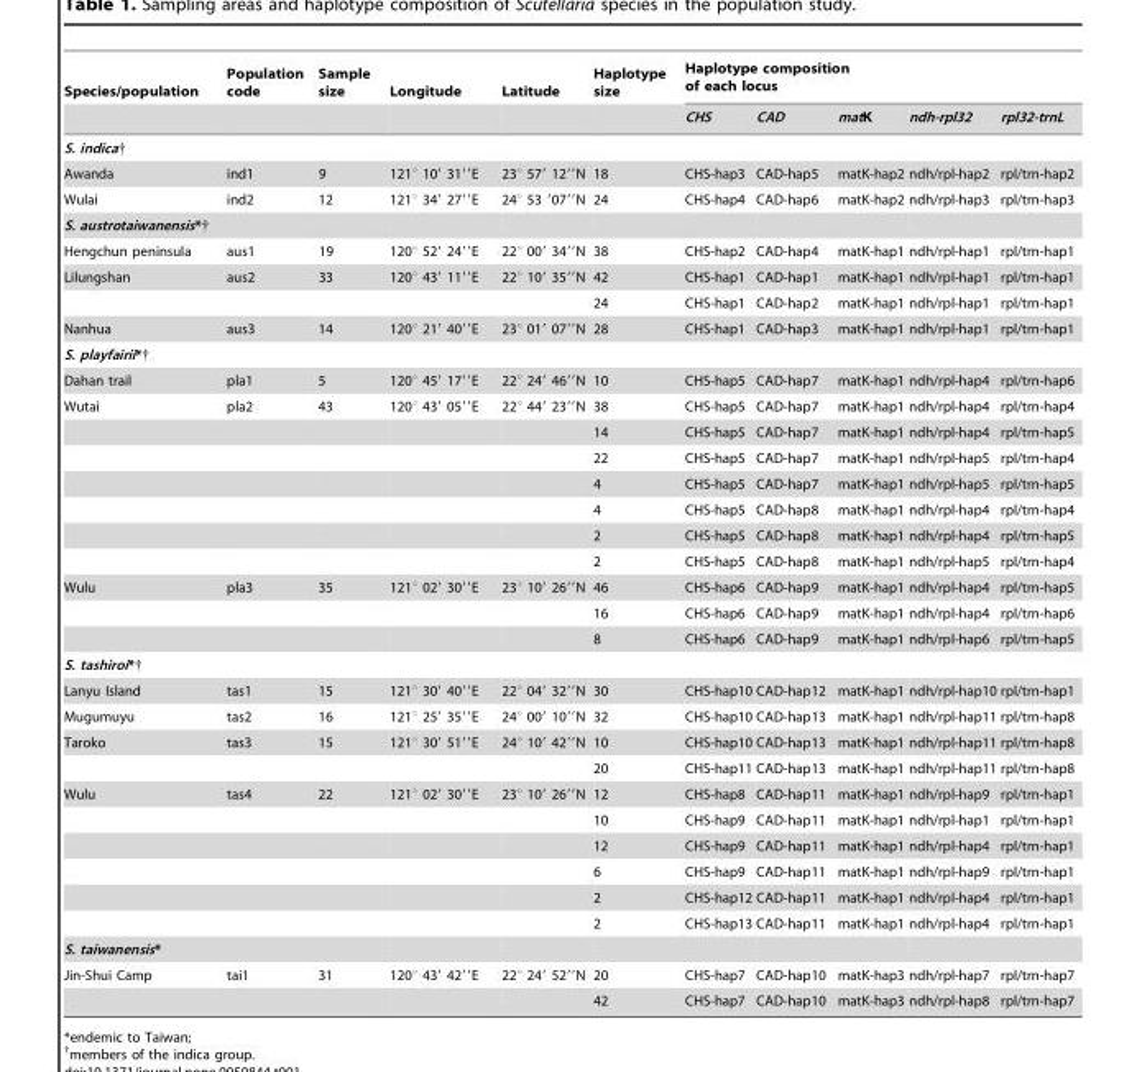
<table><thead><tr><td rowspan="2">Species/population</td><td rowspan="2">Population code</td><td rowspan="2">Sample size</td><td rowspan="2">Longitude</td><td rowspan="2">Latitude</td><td rowspan="2">Haplotype size</td><td colspan="5">Haplotype composition of each locus</td></tr><tr><td>CHS</td><td>CAD</td><td>matK</td><td>ndh-rpl32</td><td>rpl32-trnL</td></tr></thead><tbody><tr><td colspan="11">S. indica†</td></tr><tr><td>Awanda</td><td>ind1</td><td>9</td><td>121° 10′ 31′′E</td><td>23° 57′ 12′′N</td><td>18</td><td>CHS-hap3</td><td>CAD-hap5</td><td>matK-hap2</td><td>ndh/rpl-hap2</td><td>rpl/trn-hap2</td></tr><tr><td>Wulai</td><td>ind2</td><td>12</td><td>121° 34′ 27′′E</td><td>24° 53 ′07′′N</td><td>24</td><td>CHS-hap4</td><td>CAD-hap6</td><td>matK-hap2</td><td>ndh/rpl-hap3</td><td>rpl/trn-hap3</td></tr><tr><td colspan="11">S. austrotaiwanensis*†</td></tr><tr><td>Hengchun peninsula</td><td>aus1</td><td>19</td><td>120° 52′ 24′′E</td><td>22° 00′ 34′′N</td><td>38</td><td>CHS-hap2</td><td>CAD-hap4</td><td>matK-hap1</td><td>ndh/rpl-hap1</td><td>rpl/trn-hap1</td></tr><tr><td rowspan="2">Lilungshan</td><td>aus2</td><td>33</td><td>120° 43′ 11′′E</td><td>22° 10′ 35′′N</td><td>42</td><td>CHS-hap1</td><td>CAD-hap1</td><td>matK-hap1</td><td>ndh/rpl-hap1</td><td>rpl/trn-hap1</td></tr><tr><td></td><td></td><td></td><td></td><td>24</td><td>CHS-hap1</td><td>CAD-hap2</td><td>matK-hap1</td><td>ndh/rpl-hap1</td><td>rpl/trn-hap1</td></tr><tr><td>Nanhua</td><td>aus3</td><td>14</td><td>120° 21′ 40′′E</td><td>23° 01′ 07′′N</td><td>28</td><td>CHS-hap1</td><td>CAD-hap3</td><td>matK-hap1</td><td>ndh/rpl-hap1</td><td>rpl/trn-hap1</td></tr><tr><td colspan="11">S. playfairii*†</td></tr><tr><td>Dahan trail</td><td>pla1</td><td>5</td><td>120° 45′ 17′′E</td><td>22° 24′ 46′′N</td><td>10</td><td>CHS-hap5</td><td>CAD-hap7</td><td>matK-hap1</td><td>ndh/rpl-hap4</td><td>rpl/trn-hap6</td></tr><tr><td rowspan="7">Wutai</td><td>pla2</td><td>43</td><td>120° 43′ 05′′E</td><td>22° 44′ 23′′N</td><td>38</td><td>CHS-hap5</td><td>CAD-hap7</td><td>matK-hap1</td><td>ndh/rpl-hap4</td><td>rpl/trn-hap4</td></tr><tr><td></td><td></td><td></td><td></td><td>14</td><td>CHS-hap5</td><td>CAD-hap7</td><td>matK-hap1</td><td>ndh/rpl-hap4</td><td>rpl/trn-hap5</td></tr><tr><td></td><td></td><td></td><td></td><td>22</td><td>CHS-hap5</td><td>CAD-hap7</td><td>matK-hap1</td><td>ndh/rpl-hap5</td><td>rpl/trn-hap4</td></tr><tr><td></td><td></td><td></td><td></td><td>4</td><td>CHS-hap5</td><td>CAD-hap7</td><td>matK-hap1</td><td>ndh/rpl-hap5</td><td>rpl/trn-hap5</td></tr><tr><td></td><td></td><td></td><td></td><td>4</td><td>CHS-hap5</td><td>CAD-hap8</td><td>matK-hap1</td><td>ndh/rpl-hap4</td><td>rpl/trn-hap4</td></tr><tr><td></td><td></td><td></td><td></td><td>2</td><td>CHS-hap5</td><td>CAD-hap8</td><td>matK-hap1</td><td>ndh/rpl-hap4</td><td>rpl/trn-hap5</td></tr><tr><td></td><td></td><td></td><td></td><td>2</td><td>CHS-hap5</td><td>CAD-hap8</td><td>matK-hap1</td><td>ndh/rpl-hap5</td><td>rpl/trn-hap4</td></tr><tr><td rowspan="3">Wulu</td><td>pla3</td><td>35</td><td>121° 02′ 30′′E</td><td>23° 10′ 26′′N</td><td>46</td><td>CHS-hap6</td><td>CAD-hap9</td><td>matK-hap1</td><td>ndh/rpl-hap4</td><td>rpl/trn-hap5</td></tr><tr><td></td><td></td><td></td><td></td><td>16</td><td>CHS-hap6</td><td>CAD-hap9</td><td>matK-hap1</td><td>ndh/rpl-hap4</td><td>rpl/trn-hap6</td></tr><tr><td></td><td></td><td></td><td></td><td>8</td><td>CHS-hap6</td><td>CAD-hap9</td><td>matK-hap1</td><td>ndh/rpl-hap6</td><td>rpl/trn-hap5</td></tr><tr><td colspan="11">S. tashiroi*†</td></tr><tr><td>Lanyu Island</td><td>tas1</td><td>15</td><td>121° 30′ 40′′E</td><td>22° 04′ 32′′N</td><td>30</td><td>CHS-hap10</td><td>CAD-hap12</td><td>matK-hap1</td><td>ndh/rpl-hap10</td><td>rpl/trn-hap1</td></tr><tr><td>Mugumuyu</td><td>tas2</td><td>16</td><td>121° 25′ 35′′E</td><td>24° 00′ 10′′N</td><td>32</td><td>CHS-hap10</td><td>CAD-hap13</td><td>matK-hap1</td><td>ndh/rpl-hap11</td><td>rpl/trn-hap8</td></tr><tr><td rowspan="2">Taroko</td><td>tas3</td><td>15</td><td>121° 30′ 51′′E</td><td>24° 10′ 42′′N</td><td>10</td><td>CHS-hap10</td><td>CAD-hap13</td><td>matK-hap1</td><td>ndh/rpl-hap11</td><td>rpl/trn-hap8</td></tr><tr><td></td><td></td><td></td><td></td><td>20</td><td>CHS-hap11</td><td>CAD-hap13</td><td>matK-hap1</td><td>ndh/rpl-hap11</td><td>rpl/trn-hap8</td></tr><tr><td rowspan="6">Wulu</td><td>tas4</td><td>22</td><td>121° 02′ 30′′E</td><td>23° 10′ 26′′N</td><td>12</td><td>CHS-hap8</td><td>CAD-hap11</td><td>matK-hap1</td><td>ndh/rpl-hap9</td><td>rpl/trn-hap1</td></tr><tr><td></td><td></td><td></td><td></td><td>10</td><td>CHS-hap9</td><td>CAD-hap11</td><td>matK-hap1</td><td>ndh/rpl-hap1</td><td>rpl/trn-hap1</td></tr><tr><td></td><td></td><td></td><td></td><td>12</td><td>CHS-hap9</td><td>CAD-hap11</td><td>matK-hap1</td><td>ndh/rpl-hap4</td><td>rpl/trn-hap1</td></tr><tr><td></td><td></td><td></td><td></td><td>6</td><td>CHS-hap9</td><td>CAD-hap11</td><td>matK-hap1</td><td>ndh/rpl-hap9</td><td>rpl/trn-hap1</td></tr><tr><td></td><td></td><td></td><td></td><td>2</td><td>CHS-hap12</td><td>CAD-hap11</td><td>matK-hap1</td><td>ndh/rpl-hap4</td><td>rpl/trn-hap1</td></tr><tr><td></td><td></td><td></td><td></td><td>2</td><td>CHS-hap13</td><td>CAD-hap11</td><td>matK-hap1</td><td>ndh/rpl-hap4</td><td>rpl/trn-hap1</td></tr><tr><td colspan="11">S. taiwanensis*</td></tr><tr><td rowspan="2">Jin-Shui Camp</td><td>tai1</td><td>31</td><td>120° 43′ 42′′E</td><td>22° 24′ 52′′N</td><td>20</td><td>CHS-hap7</td><td>CAD-hap10</td><td>matK-hap3</td><td>ndh/rpl-hap7</td><td>rpl/trn-hap7</td></tr><tr><td></td><td></td><td></td><td></td><td>42</td><td>CHS-hap7</td><td>CAD-hap10</td><td>matK-hap3</td><td>ndh/rpl-hap8</td><td>rpl/trn-hap7</td></tr></tbody></table>